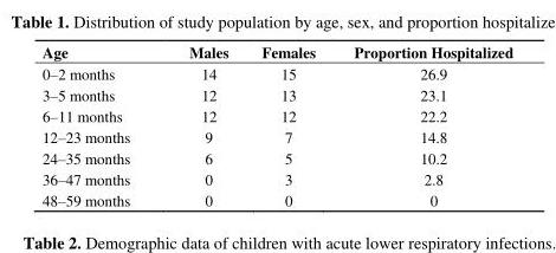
<table><thead><tr><td>Age</td><td>Males</td><td>Females</td><td>Proportion Hospitalized</td></tr></thead><tbody><tr><td>0–2 months</td><td>14</td><td>15</td><td>26.9</td></tr><tr><td>3–5 months</td><td>12</td><td>13</td><td>23.1</td></tr><tr><td>6–11 months</td><td>12</td><td>12</td><td>22.2</td></tr><tr><td>12–23 months</td><td>9</td><td>7</td><td>14.8</td></tr><tr><td>24–35 months</td><td>6</td><td>5</td><td>10.2</td></tr><tr><td>36–47 months</td><td>0</td><td>3</td><td>2.8</td></tr><tr><td>48–59 months</td><td>0</td><td>0</td><td>0</td></tr></tbody></table>